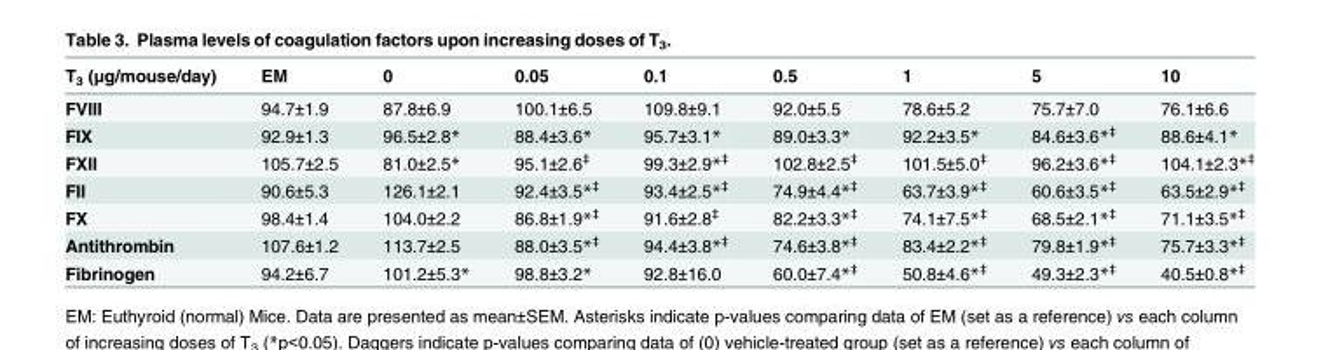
<table><thead><tr><td>T<sub>3</sub> (μg/mouse/day)</td><td>EM</td><td>0</td><td>0.05</td><td>0.1</td><td>0.5</td><td>1</td><td>5</td><td>10</td></tr></thead><tbody><tr><td>FVIII</td><td>94.7±1.9</td><td>87.8±6.9</td><td>100.1±6.5</td><td>109.8±9.1</td><td>92.0±5.5</td><td>78.6±5.2</td><td>75.7±7.0</td><td>76.1±6.6</td></tr><tr><td>FIX</td><td>92.9±1.3</td><td>96.5±2.8*</td><td>88.4±3.6*</td><td>95.7±3.1*</td><td>89.0±3.3*</td><td>92.2±3.5*</td><td>84.6±3.6*<sup>‡</sup></td><td>88.6±4.1*</td></tr><tr><td>FXII</td><td>105.7±2.5</td><td>81.0±2.5*</td><td>95.1±2.6<sup>‡</sup></td><td>99.3±2.9*<sup>‡</sup></td><td>102.8±2.5<sup>‡</sup></td><td>101.5±5.0<sup>‡</sup></td><td>96.2±3.6*<sup>‡</sup></td><td>104.1±2.3*<sup>‡</sup></td></tr><tr><td>FII</td><td>90.6±5.3</td><td>126.1±2.1</td><td>92.4±3.5*<sup>‡</sup></td><td>93.4±2.5*<sup>‡</sup></td><td>74.9±4.4*<sup>‡</sup></td><td>63.7±3.9*<sup>‡</sup></td><td>60.6±3.5*<sup>‡</sup></td><td>63.5±2.9*<sup>‡</sup></td></tr><tr><td>FX</td><td>98.4±1.4</td><td>104.0±2.2</td><td>86.8±1.9*<sup>‡</sup></td><td>91.6±2.8<sup>‡</sup></td><td>82.2±3.3*<sup>‡</sup></td><td>74.1±7.5*<sup>‡</sup></td><td>68.5±2.1*<sup>‡</sup></td><td>71.1±3.5*<sup>‡</sup></td></tr><tr><td>Antithrombin</td><td>107.6±1.2</td><td>113.7±2.5</td><td>88.0±3.5*<sup>‡</sup></td><td>94.4±3.8*<sup>‡</sup></td><td>74.6±3.8*<sup>‡</sup></td><td>83.4±2.2*<sup>‡</sup></td><td>79.8±1.9*<sup>‡</sup></td><td>75.7±3.3*<sup>‡</sup></td></tr><tr><td>Fibrinogen</td><td>94.2±6.7</td><td>101.2±5.3*</td><td>98.8±3.2*</td><td>92.8±16.0</td><td>60.0±7.4*<sup>‡</sup></td><td>50.8±4.6*<sup>‡</sup></td><td>49.3±2.3*<sup>‡</sup></td><td>40.5±0.8*<sup>‡</sup></td></tr></tbody></table>